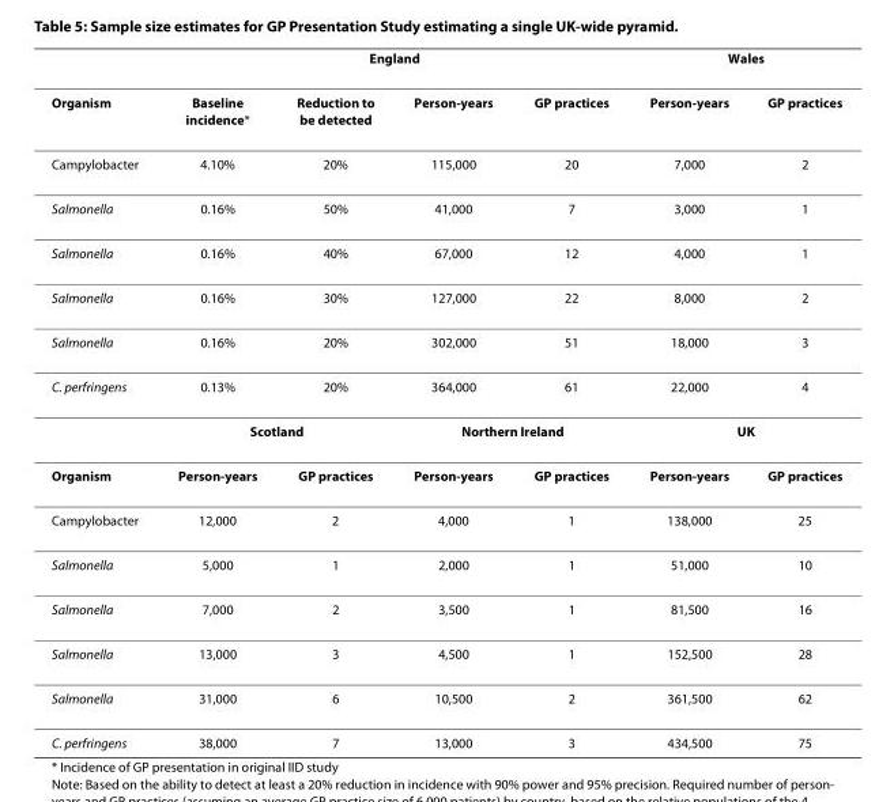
<table><thead><tr><td rowspan="2">Organism</td><td colspan="4">England</td><td colspan="2">Wales</td></tr><tr><td>Baseline incidence*</td><td>Reduction to be detected</td><td>Person-years</td><td>GP practices</td><td>Person-years</td><td>GP practices</td></tr></thead><tbody><tr><td>Campylobacter</td><td>4.10%</td><td>20%</td><td>115,000</td><td>20</td><td>7,000</td><td>2</td></tr><tr><td>Salmonella</td><td>0.16%</td><td>50%</td><td>41,000</td><td>7</td><td>3,000</td><td>1</td></tr><tr><td>Salmonella</td><td>0.16%</td><td>40%</td><td>67,000</td><td>12</td><td>4,000</td><td>1</td></tr><tr><td>Salmonella</td><td>0.16%</td><td>30%</td><td>127,000</td><td>22</td><td>8,000</td><td>2</td></tr><tr><td>Salmonella</td><td>0.16%</td><td>20%</td><td>302,000</td><td>51</td><td>18,000</td><td>3</td></tr><tr><td rowspan="2">C. perfringens</td><td>0.13%</td><td>20%</td><td>364,000</td><td>61</td><td>22,000</td><td>4</td></tr><tr><td colspan="2">Scotland</td><td colspan="2">Northern Ireland</td><td colspan="2">UK</td></tr><tr><td>Organism</td><td>Person-years</td><td>GP practices</td><td>Person-years</td><td>GP practices</td><td>Person-years</td><td>GP practices</td></tr><tr><td>Campylobacter</td><td>12,000</td><td>2</td><td>4,000</td><td>1</td><td>138,000</td><td>25</td></tr><tr><td>Salmonella</td><td>5,000</td><td>1</td><td>2,000</td><td>1</td><td>51,000</td><td>10</td></tr><tr><td>Salmonella</td><td>7,000</td><td>2</td><td>3,500</td><td>1</td><td>81,500</td><td>16</td></tr><tr><td>Salmonella</td><td>13,000</td><td>3</td><td>4,500</td><td>1</td><td>152,500</td><td>28</td></tr><tr><td>Salmonella</td><td>31,000</td><td>6</td><td>10,500</td><td>2</td><td>361,500</td><td>62</td></tr><tr><td>C. perfringens</td><td>38,000</td><td>7</td><td>13,000</td><td>3</td><td>434,500</td><td>75</td></tr></tbody></table>